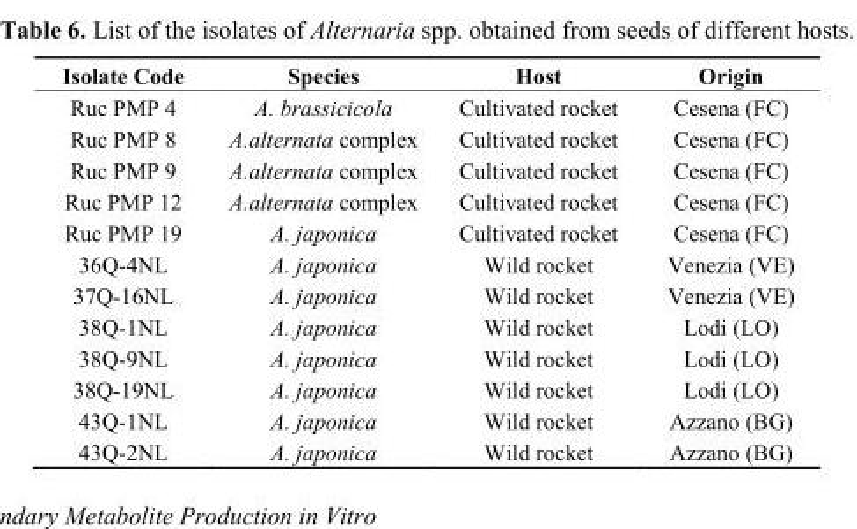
<table><thead><tr><td>Isolate Code</td><td>Species</td><td>Host</td><td>Origin</td></tr></thead><tbody><tr><td>Ruc PMP 4</td><td>A. brassicicola</td><td>Cultivated rocket</td><td>Cesena (FC)</td></tr><tr><td>Ruc PMP 8</td><td>A.alternata complex</td><td>Cultivated rocket</td><td>Cesena (FC)</td></tr><tr><td>Ruc PMP 9</td><td>A.alternata complex</td><td>Cultivated rocket</td><td>Cesena (FC)</td></tr><tr><td>Ruc PMP 12</td><td>A.alternata complex</td><td>Cultivated rocket</td><td>Cesena (FC)</td></tr><tr><td>Ruc PMP 19</td><td>A. japonica</td><td>Cultivated rocket</td><td>Cesena (FC)</td></tr><tr><td>36Q-4NL</td><td>A. japonica</td><td>Wild rocket</td><td>Venezia (VE)</td></tr><tr><td>37Q-16NL</td><td>A. japonica</td><td>Wild rocket</td><td>Venezia (VE)</td></tr><tr><td>38Q-1NL</td><td>A. japonica</td><td>Wild rocket</td><td>Lodi (LO)</td></tr><tr><td>38Q-9NL</td><td>A. japonica</td><td>Wild rocket</td><td>Lodi (LO)</td></tr><tr><td>38Q-19NL</td><td>A. japonica</td><td>Wild rocket</td><td>Lodi (LO)</td></tr><tr><td>43Q-1NL</td><td>A. japonica</td><td>Wild rocket</td><td>Azzano (BG)</td></tr><tr><td>43Q-2NL</td><td>A. japonica</td><td>Wild rocket</td><td>Azzano (BG)</td></tr></tbody></table>